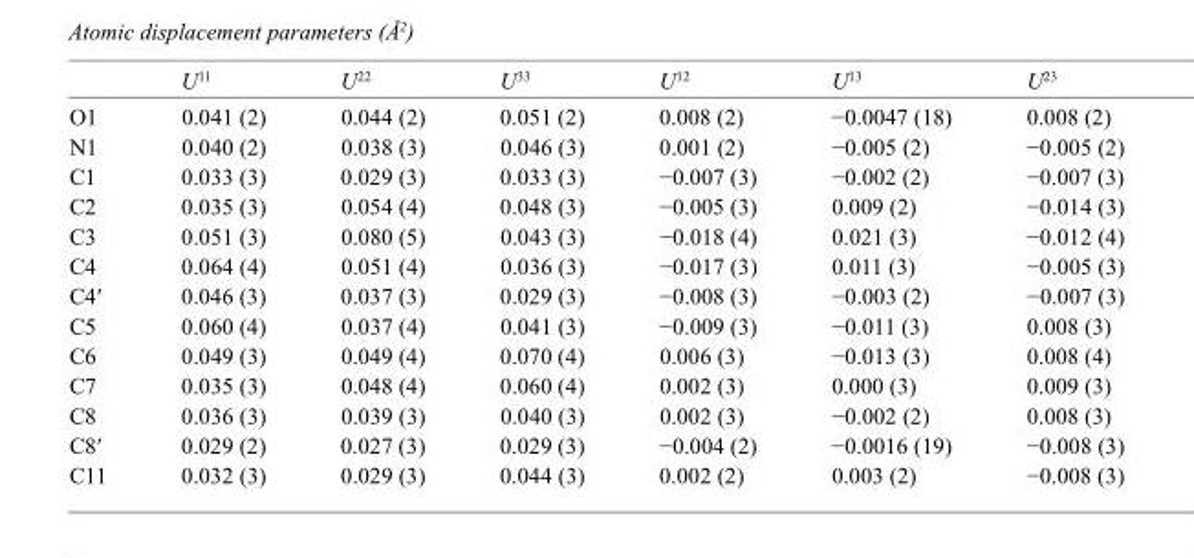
<table><thead><tr><td></td><td>U<sup>11</sup></td><td>U<sup>22</sup></td><td>U<sup>33</sup></td><td>U<sup>12</sup></td><td>U<sup>13</sup></td><td>U<sup>23</sup></td></tr></thead><tbody><tr><td>O1</td><td>0.041 (2)</td><td>0.044 (2)</td><td>0.051 (2)</td><td>0.008 (2)</td><td>−0.0047 (18)</td><td>0.008 (2)</td></tr><tr><td>N1</td><td>0.040 (2)</td><td>0.038 (3)</td><td>0.046 (3)</td><td>0.001 (2)</td><td>−0.005 (2)</td><td>−0.005 (2)</td></tr><tr><td>C1</td><td>0.033 (3)</td><td>0.029 (3)</td><td>0.033 (3)</td><td>−0.007 (3)</td><td>−0.002 (2)</td><td>−0.007 (3)</td></tr><tr><td>C2</td><td>0.035 (3)</td><td>0.054 (4)</td><td>0.048 (3)</td><td>−0.005 (3)</td><td>0.009 (2)</td><td>−0.014 (3)</td></tr><tr><td>C3</td><td>0.051 (3)</td><td>0.080 (5)</td><td>0.043 (3)</td><td>−0.018 (4)</td><td>0.021 (3)</td><td>−0.012 (4)</td></tr><tr><td>C4</td><td>0.064 (4)</td><td>0.051 (4)</td><td>0.036 (3)</td><td>−0.017 (3)</td><td>0.011 (3)</td><td>−0.005 (3)</td></tr><tr><td>C4′</td><td>0.046 (3)</td><td>0.037 (3)</td><td>0.029 (3)</td><td>−0.008 (3)</td><td>−0.003 (2)</td><td>−0.007 (3)</td></tr><tr><td>C5</td><td>0.060 (4)</td><td>0.037 (4)</td><td>0.041 (3)</td><td>−0.009 (3)</td><td>−0.011 (3)</td><td>0.008 (3)</td></tr><tr><td>C6</td><td>0.049 (3)</td><td>0.049 (4)</td><td>0.070 (4)</td><td>0.006 (3)</td><td>−0.013 (3)</td><td>0.008 (4)</td></tr><tr><td>C7</td><td>0.035 (3)</td><td>0.048 (4)</td><td>0.060 (4)</td><td>0.002 (3)</td><td>0.000 (3)</td><td>0.009 (3)</td></tr><tr><td>C8</td><td>0.036 (3)</td><td>0.039 (3)</td><td>0.040 (3)</td><td>0.002 (3)</td><td>−0.002 (2)</td><td>0.008 (3)</td></tr><tr><td>C8′</td><td>0.029 (2)</td><td>0.027 (3)</td><td>0.029 (3)</td><td>−0.004 (2)</td><td>−0.0016 (19)</td><td>−0.008 (3)</td></tr><tr><td>C11</td><td>0.032 (3)</td><td>0.029 (3)</td><td>0.044 (3)</td><td>0.002 (2)</td><td>0.003 (2)</td><td>−0.008 (3)</td></tr></tbody></table>